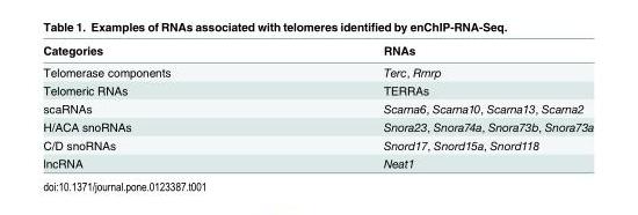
<table><thead><tr><td>Categories</td><td>RNAs</td></tr></thead><tbody><tr><td>Telomerase components</td><td>Terc, Rmrp</td></tr><tr><td>Telomeric RNAs</td><td>TERRAs</td></tr><tr><td>scaRNAs</td><td>Scarna6, Scarna10, Scarna13, Scarna2</td></tr><tr><td>H/ACA snoRNAs</td><td>Snora23, Snora74a, Snora73b, Snora73a</td></tr><tr><td>C/D snoRNAs</td><td>Snord17, Snord15a, Snord118</td></tr><tr><td>lncRNA</td><td>Neat1</td></tr></tbody></table>